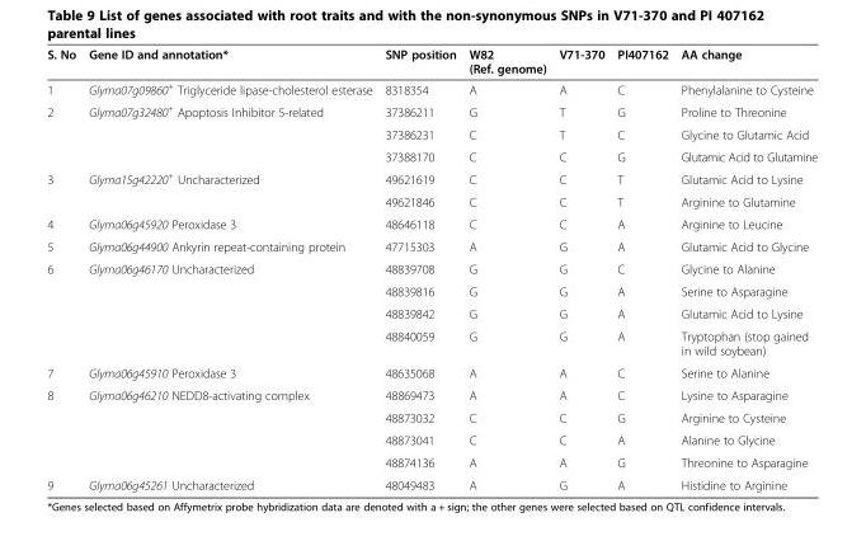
<table><thead><tr><td>S. No</td><td>Gene ID and annotation*</td><td>SNP position</td><td>W82 (Ref. genome)</td><td>V71-370</td><td>PI407162</td><td>AA change</td></tr></thead><tbody><tr><td>1</td><td>Glyma07g09860<sup>+</sup> Triglyceride lipase-cholesterol esterase</td><td>8318354</td><td>A</td><td>A</td><td>C</td><td>Phenylalanine to Cysteine</td></tr><tr><td rowspan="3">2</td><td rowspan="3">Glyma07g32480<sup>+</sup> Apoptosis Inhibitor 5-related</td><td>37386211</td><td>G</td><td>T</td><td>G</td><td>Proline to Threonine</td></tr><tr><td>37386231</td><td>C</td><td>T</td><td>C</td><td>Glycine to Glutamic Acid</td></tr><tr><td>37388170</td><td>C</td><td>C</td><td>G</td><td>Glutamic Acid to Glutamine</td></tr><tr><td rowspan="2">3</td><td rowspan="2">Glyma15g42220<sup>+</sup> Uncharacterized</td><td>49621619</td><td>C</td><td>C</td><td>T</td><td>Glutamic Acid to Lysine</td></tr><tr><td>49621846</td><td>C</td><td>C</td><td>T</td><td>Arginine to Glutamine</td></tr><tr><td>4</td><td>Glyma06g45920 Peroxidase 3</td><td>48646118</td><td>C</td><td>C</td><td>A</td><td>Arginine to Leucine</td></tr><tr><td>5</td><td>Glyma06g44900 Ankyrin repeat-containing protein</td><td>47715303</td><td>A</td><td>G</td><td>A</td><td>Glutamic Acid to Glycine</td></tr><tr><td rowspan="4">6</td><td rowspan="4">Glyma06g46170 Uncharacterized</td><td>48839708</td><td>G</td><td>G</td><td>C</td><td>Glycine to Alanine</td></tr><tr><td>48839816</td><td>G</td><td>G</td><td>A</td><td>Serine to Asparagine</td></tr><tr><td>48839842</td><td>G</td><td>G</td><td>A</td><td>Glutamic Acid to Lysine</td></tr><tr><td>48840059</td><td>G</td><td>G</td><td>A</td><td>Tryptophan (stop gained in wild soybean)</td></tr><tr><td>7</td><td>Glyma06g45910 Peroxidase 3</td><td>48635068</td><td>A</td><td>A</td><td>C</td><td>Serine to Alanine</td></tr><tr><td rowspan="4">8</td><td rowspan="4">Glyma06g46210 NEDD8-activating complex</td><td>48869473</td><td>A</td><td>A</td><td>C</td><td>Lysine to Asparagine</td></tr><tr><td>48873032</td><td>C</td><td>C</td><td>G</td><td>Arginine to Cysteine</td></tr><tr><td>48873041</td><td>C</td><td>C</td><td>A</td><td>Alanine to Glycine</td></tr><tr><td>48874136</td><td>A</td><td>A</td><td>G</td><td>Threonine to Asparagine</td></tr><tr><td>9</td><td>Glyma06g45261 Uncharacterized</td><td>48049483</td><td>A</td><td>G</td><td>A</td><td>Histidine to Arginine</td></tr></tbody></table>